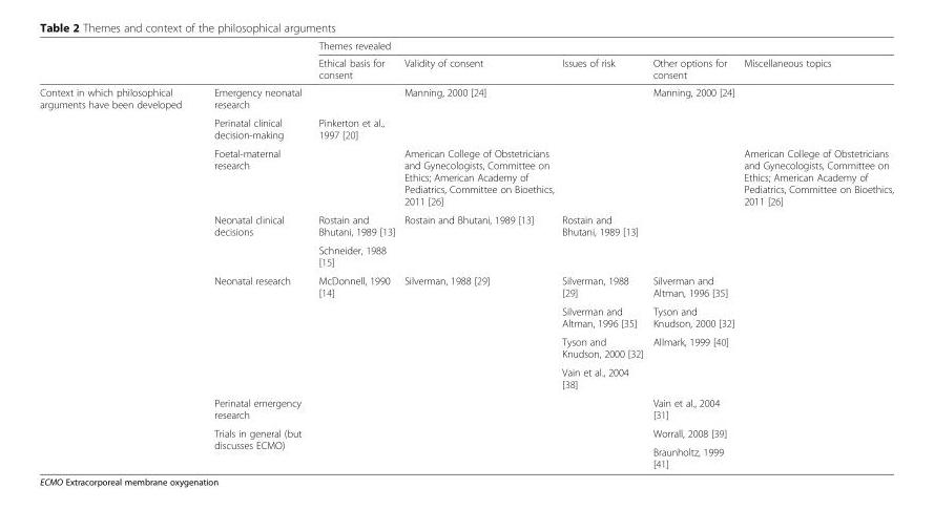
<table><thead><tr><td rowspan="2"></td><td rowspan="2"></td><td colspan="5">Themes revealed</td></tr><tr><td>Ethical basis for consent</td><td>Validity of consent</td><td>Issues of risk</td><td>Other options for consent</td><td>Miscellaneous topics</td></tr></thead><tbody><tr><td rowspan="12">Context in which philosophical arguments have been developed</td><td>Emergency neonatal research</td><td></td><td>Manning, 2000 [24]</td><td></td><td>Manning, 2000 [24]</td><td></td></tr><tr><td>Perinatal clinical decision-making</td><td>Pinkerton et al., 1997 [20]</td><td></td><td></td><td></td><td></td></tr><tr><td>Foetal-maternal research</td><td></td><td>American College of Obstetricians and Gynecologists, Committee on Ethics; American Academy of Pediatrics, Committee on Bioethics, 2011 [26]</td><td></td><td></td><td>American College of Obstetricians and Gynecologists, Committee on Ethics; American Academy of Pediatrics, Committee on Bioethics, 2011 [26]</td></tr><tr><td rowspan="2">Neonatal clinical decisions</td><td>Rostain and Bhutani, 1989 [13]</td><td rowspan="2">Rostain and Bhutani, 1989 [13]</td><td rowspan="2">Rostain and Bhutani, 1989 [13]</td><td rowspan="2"></td><td rowspan="2"></td></tr><tr><td>Schneider, 1988 [15]</td></tr><tr><td rowspan="4">Neonatal research</td><td rowspan="4">McDonnell, 1990 [14]</td><td rowspan="4">Silverman, 1988 [29]</td><td>Silverman, 1988 [29]</td><td>Silverman and Altman, 1996 [35]</td><td rowspan="4"></td></tr><tr><td>Silverman and Altman, 1996 [35]</td><td>Tyson and Knudson, 2000 [32]</td></tr><tr><td>Tyson and Knudson, 2000 [32]</td><td rowspan="2">Allmark, 1999 [40]</td></tr><tr><td>Vain et al., 2004 [38]</td></tr><tr><td>Perinatal emergency research</td><td></td><td></td><td></td><td>Vain et al., 2004 [31]</td><td></td></tr><tr><td rowspan="2">Trials in general (but discusses ECMO)</td><td rowspan="2"></td><td rowspan="2"></td><td rowspan="2"></td><td>Worrall, 2008 [39]</td><td rowspan="2"></td></tr><tr><td>Braunholtz, 1999 [41]</td></tr></tbody></table>